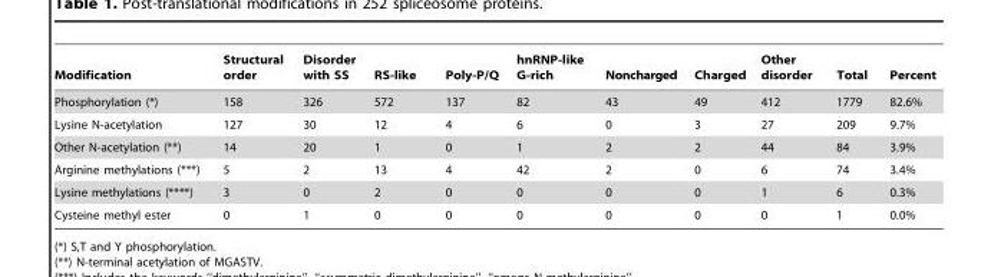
<table><thead><tr><td>Modification</td><td>Structural order</td><td>Disorder with SS</td><td>RS-like</td><td>Poly-P/Q</td><td>hnRNP-like G-rich</td><td>Noncharged</td><td>Charged</td><td>Other disorder</td><td>Total</td><td>Percent</td></tr></thead><tbody><tr><td>Phosphorylation (*)</td><td>158</td><td>326</td><td>572</td><td>137</td><td>82</td><td>43</td><td>49</td><td>412</td><td>1779</td><td>82.6%</td></tr><tr><td>Lysine N-acetylation</td><td>127</td><td>30</td><td>12</td><td>4</td><td>6</td><td>0</td><td>3</td><td>27</td><td>209</td><td>9.7%</td></tr><tr><td>Other N-acetylation (**)</td><td>14</td><td>20</td><td>1</td><td>0</td><td>1</td><td>2</td><td>2</td><td>44</td><td>84</td><td>3.9%</td></tr><tr><td>Arginine methylations (***)</td><td>5</td><td>2</td><td>13</td><td>4</td><td>42</td><td>2</td><td>0</td><td>6</td><td>74</td><td>3.4%</td></tr><tr><td>Lysine methylations (****)</td><td>3</td><td>0</td><td>2</td><td>0</td><td>0</td><td>0</td><td>0</td><td>1</td><td>6</td><td>0.3%</td></tr><tr><td>Cysteine methyl ester</td><td>0</td><td>1</td><td>0</td><td>0</td><td>0</td><td>0</td><td>0</td><td>0</td><td>1</td><td>0.0%</td></tr></tbody></table>